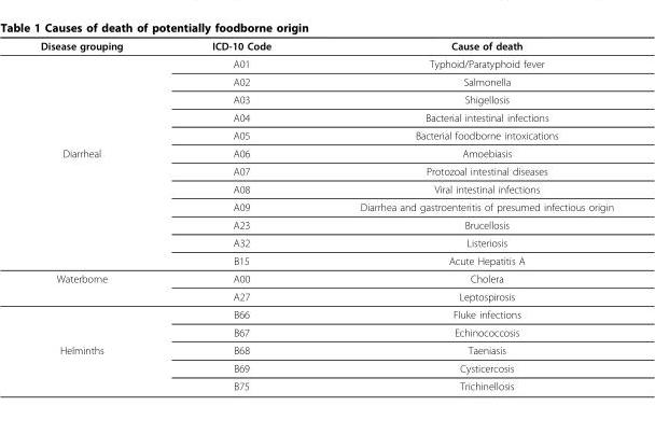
<table><thead><tr><td>Disease grouping</td><td>ICD-10 Code</td><td>Cause of death</td></tr></thead><tbody><tr><td></td><td>A01</td><td>Typhoid/Paratyphoid fever</td></tr><tr><td></td><td>A02</td><td>Salmonella</td></tr><tr><td></td><td>A03</td><td>Shigellosis</td></tr><tr><td></td><td>A04</td><td>Bacterial intestinal infections</td></tr><tr><td></td><td>A05</td><td>Bacterial foodborne intoxications</td></tr><tr><td rowspan="7">Diarrheal</td><td>A06</td><td>Amoebiasis</td></tr><tr><td>A07</td><td>Protozoal intestinal diseases</td></tr><tr><td>A08</td><td>Viral intestinal infections</td></tr><tr><td>A09</td><td>Diarrhea and gastroenteritis of presumed infectious origin</td></tr><tr><td>A23</td><td>Brucellosis</td></tr><tr><td>A32</td><td>Listeriosis</td></tr><tr><td>B15</td><td>Acute Hepatitis A</td></tr><tr><td rowspan="4">Waterborne</td><td>A00</td><td>Cholera</td></tr><tr><td>A27</td><td>Leptospirosis</td></tr><tr><td>B66</td><td>Fluke infections</td></tr><tr><td>B67</td><td>Echinococcosis</td></tr><tr><td rowspan="3">Helminths</td><td>B68</td><td>Taeniasis</td></tr><tr><td>B69</td><td>Cysticercosis</td></tr><tr><td>B75</td><td>Trichinellosis</td></tr></tbody></table>